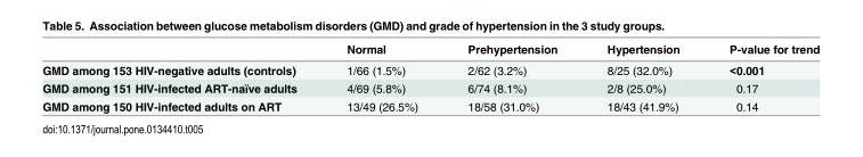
<table><thead><tr><td></td><td>Normal</td><td>Prehypertension</td><td>Hypertension</td><td>P-value for trend</td></tr></thead><tbody><tr><td>GMD among 153 HIV-negative adults (controls)</td><td>1/66 (1.5%)</td><td>2/62 (3.2%)</td><td>8/25 (32.0%)</td><td>&lt;0.001</td></tr><tr><td>GMD among 151 HIV-infected ART-naïve adults</td><td>4/69 (5.8%)</td><td>6/74 (8.1%)</td><td>2/8 (25.0%)</td><td>0.17</td></tr><tr><td>GMD among 150 HIV-infected adults on ART</td><td>13/49 (26.5%)</td><td>18/58 (31.0%)</td><td>18/43 (41.9%)</td><td>0.14</td></tr></tbody></table>